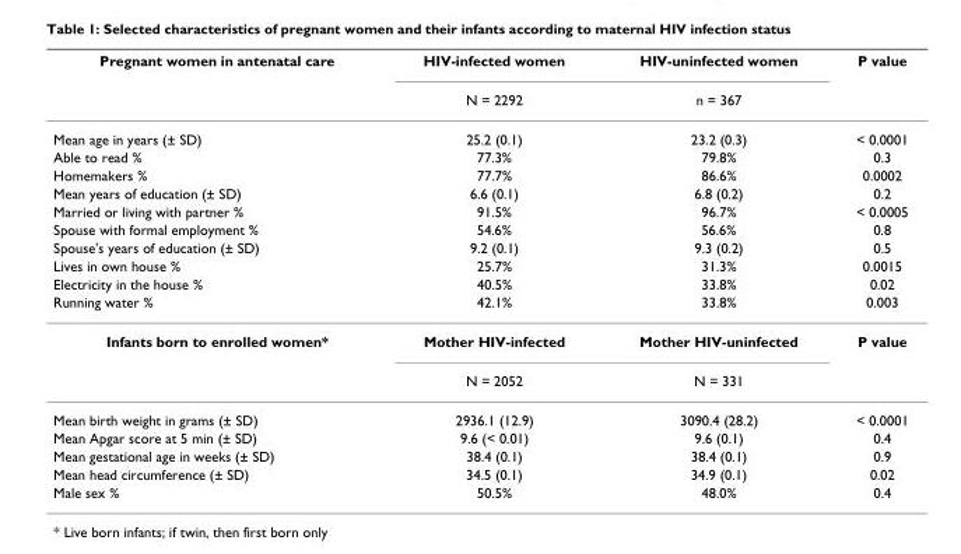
<table><thead><tr><td rowspan="2">Pregnant women in antenatal care</td><td rowspan="2">HIV-infected women N = 2292</td><td rowspan="2">HIV-uninfected women n = 367</td><td rowspan="2">P value</td></tr><tr></tr></thead><tbody><tr><td>Mean age in years (± SD)</td><td>25.2 (0.1)</td><td>23.2 (0.3)</td><td>&lt; 0.0001</td></tr><tr><td>Able to read %</td><td>77.3%</td><td>79.8%</td><td>0.3</td></tr><tr><td>Homemakers %</td><td>77.7%</td><td>86.6%</td><td>0.0002</td></tr><tr><td>Mean years of education (± SD)</td><td>6.6 (0.1)</td><td>6.8 (0.2)</td><td>0.2</td></tr><tr><td>Married or living with partner %</td><td>91.5%</td><td>96.7%</td><td>&lt; 0.0005</td></tr><tr><td>Spouse with formal employment %</td><td>54.6%</td><td>56.6%</td><td>0.8</td></tr><tr><td>Spouse&#x27;s years of education (± SD)</td><td>9.2 (0.1)</td><td>9.3 (0.2)</td><td>0.5</td></tr><tr><td>Lives in own house %</td><td>25.7%</td><td>31.3%</td><td>0.0015</td></tr><tr><td>Electricity in the house %</td><td>40.5%</td><td>33.8%</td><td>0.02</td></tr><tr><td>Running water %</td><td>42.1%</td><td>33.8%</td><td>0.003</td></tr><tr><td rowspan="2">Infants born to enrolled women*</td><td>Mother HIV-infected</td><td>Mother HIV-uninfected</td><td>P value</td></tr><tr><td>N = 2052</td><td>N = 331</td><td></td></tr><tr><td>Mean birth weight in grams (± SD)</td><td>2936.1 (12.9)</td><td>3090.4 (28.2)</td><td>&lt; 0.0001</td></tr><tr><td>Mean Apgar score at 5 min (± SD)</td><td>9.6 (&lt; 0.01)</td><td>9.6 (0.1)</td><td>0.4</td></tr><tr><td>Mean gestational age in weeks (± SD)</td><td>38.4 (0.1)</td><td>38.4 (0.1)</td><td>0.9</td></tr><tr><td>Mean head circumference (± SD)</td><td>34.5 (0.1)</td><td>34.9 (0.1)</td><td>0.02</td></tr><tr><td>Male sex %</td><td>50.5%</td><td>48.0%</td><td>0.4</td></tr></tbody></table>